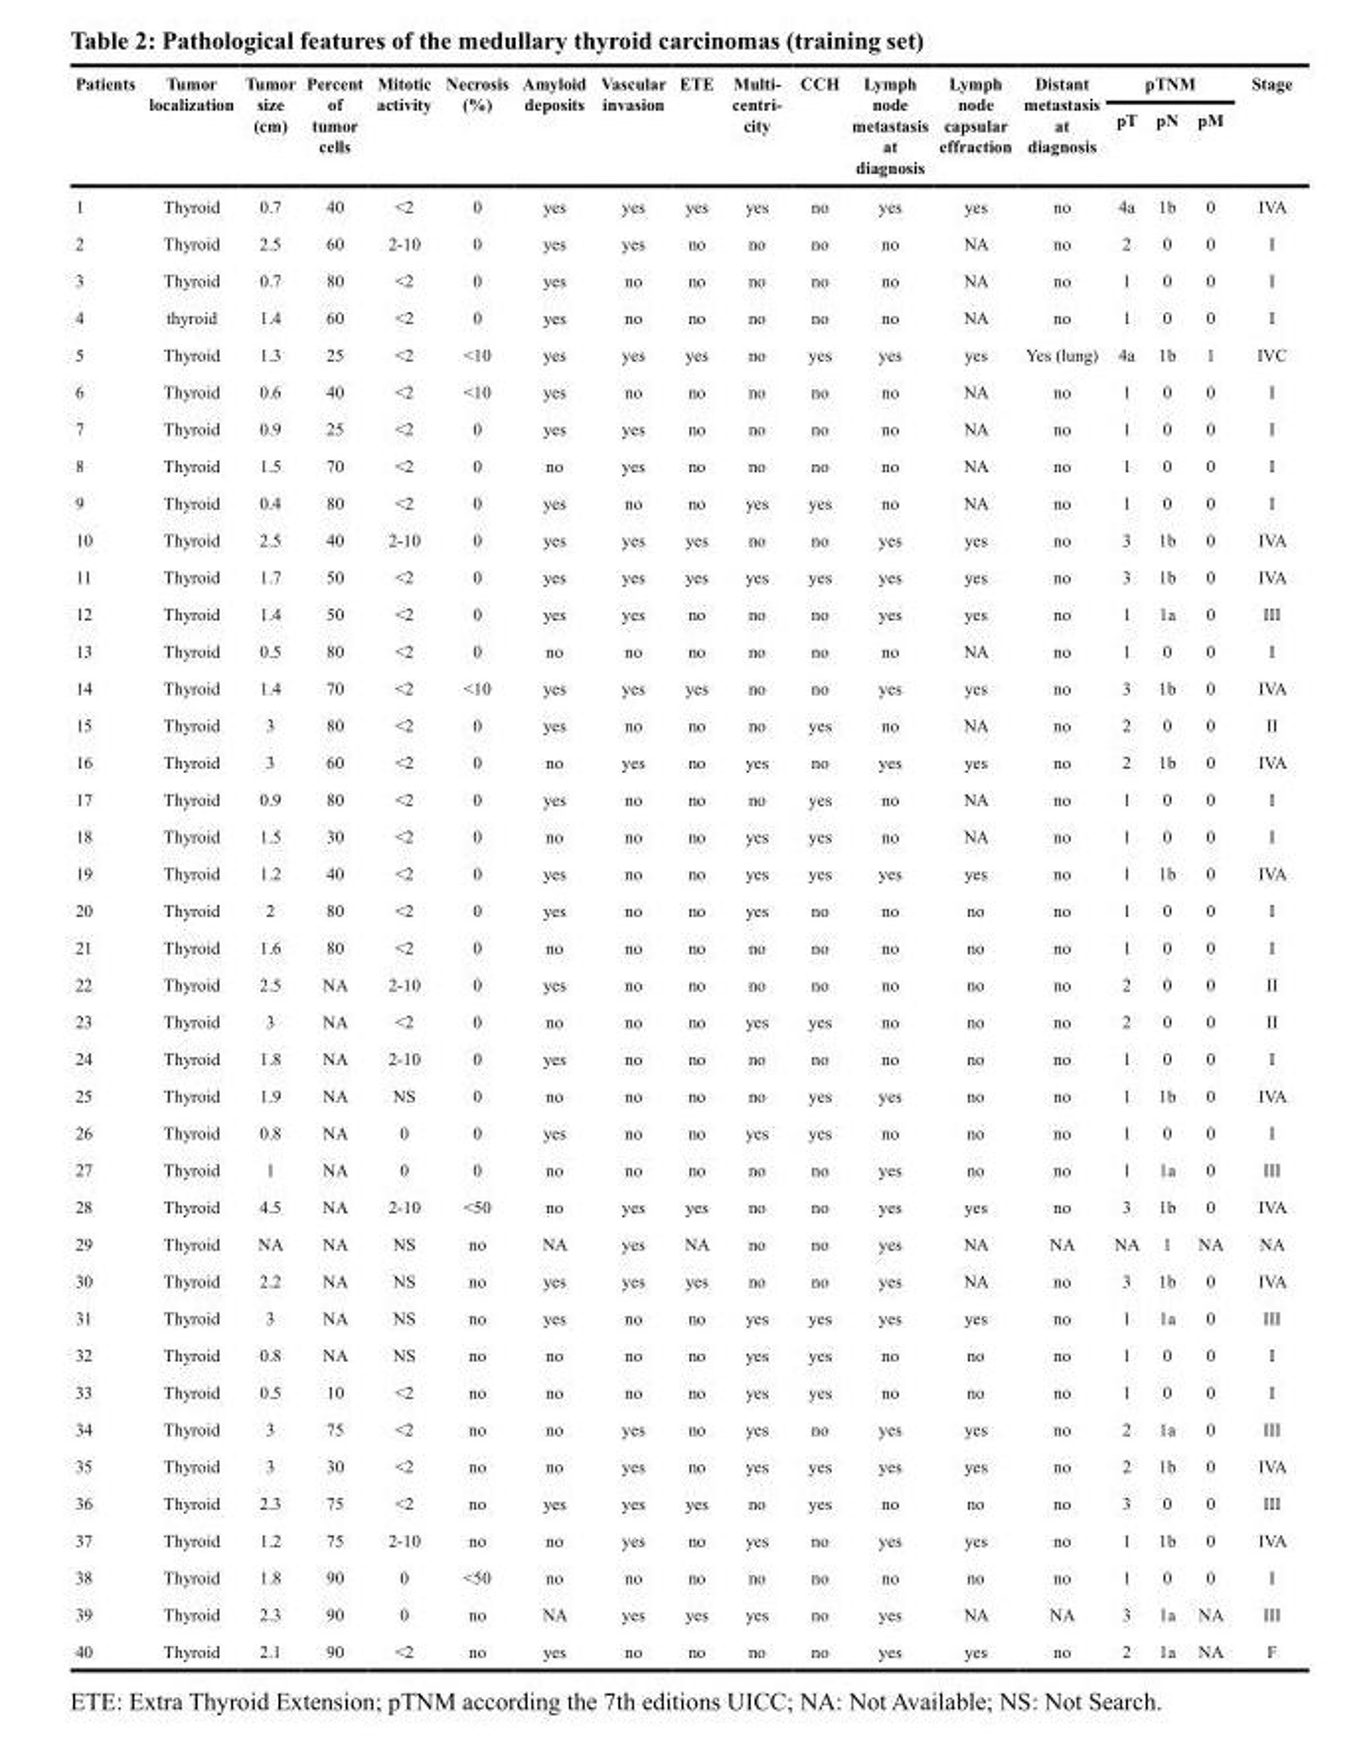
<table><thead><tr><td rowspan="2">Patients</td><td rowspan="2">Tumor localization</td><td rowspan="2">Tumor size (cm)</td><td rowspan="2">Percent of tumor cells</td><td rowspan="2">Mitotic activity</td><td rowspan="2">Necrosis (%)</td><td rowspan="2">Amyloid deposits</td><td rowspan="2">Vascular invasion</td><td rowspan="2">ETE</td><td rowspan="2">Multi- centri- city</td><td rowspan="2">CCH</td><td rowspan="2">Lymph node metastasis at diagnosis</td><td rowspan="2">Lymph node capsular effraction</td><td rowspan="2">Distant metastasis at diagnosis</td><td colspan="3">pTNM</td><td rowspan="2">Stage</td></tr><tr><td>pT</td><td>pN</td><td>pM</td></tr></thead><tbody><tr><td>1</td><td>Thyroid</td><td>0.7</td><td>40</td><td>&lt;2</td><td>0</td><td>yes</td><td>yes</td><td>yes</td><td>yes</td><td>no</td><td>yes</td><td>yes</td><td>no</td><td>4a</td><td>1b</td><td>0</td><td>IVA</td></tr><tr><td>2</td><td>Thyroid</td><td>2.5</td><td>60</td><td>2-10</td><td>0</td><td>yes</td><td>yes</td><td>no</td><td>no</td><td>no</td><td>no</td><td>NA</td><td>no</td><td>2</td><td>0</td><td>0</td><td>I</td></tr><tr><td>3</td><td>Thyroid</td><td>0.7</td><td>80</td><td>&lt;2</td><td>0</td><td>yes</td><td>no</td><td>no</td><td>no</td><td>no</td><td>no</td><td>NA</td><td>no</td><td>1</td><td>0</td><td>0</td><td>I</td></tr><tr><td>4</td><td>thyroid</td><td>1.4</td><td>60</td><td>&lt;2</td><td>0</td><td>yes</td><td>no</td><td>no</td><td>no</td><td>no</td><td>no</td><td>NA</td><td>no</td><td>1</td><td>0</td><td>0</td><td>I</td></tr><tr><td>5</td><td>Thyroid</td><td>1.3</td><td>25</td><td>&lt;2</td><td>&lt;10</td><td>yes</td><td>yes</td><td>yes</td><td>no</td><td>yes</td><td>yes</td><td>yes</td><td>Yes (lung)</td><td>4a</td><td>1b</td><td>1</td><td>IVC</td></tr><tr><td>6</td><td>Thyroid</td><td>0.6</td><td>40</td><td>&lt;2</td><td>&lt;10</td><td>yes</td><td>no</td><td>no</td><td>no</td><td>no</td><td>no</td><td>NA</td><td>no</td><td>1</td><td>0</td><td>0</td><td>I</td></tr><tr><td>7</td><td>Thyroid</td><td>0.9</td><td>25</td><td>&lt;2</td><td>0</td><td>yes</td><td>yes</td><td>no</td><td>no</td><td>no</td><td>no</td><td>NA</td><td>no</td><td>1</td><td>0</td><td>0</td><td>I</td></tr><tr><td>8</td><td>Thyroid</td><td>1.5</td><td>70</td><td>&lt;2</td><td>0</td><td>no</td><td>yes</td><td>no</td><td>no</td><td>no</td><td>no</td><td>NA</td><td>no</td><td>1</td><td>0</td><td>0</td><td>I</td></tr><tr><td>9</td><td>Thyroid</td><td>0.4</td><td>80</td><td>&lt;2</td><td>0</td><td>yes</td><td>no</td><td>no</td><td>yes</td><td>yes</td><td>no</td><td>NA</td><td>no</td><td>1</td><td>0</td><td>0</td><td>I</td></tr><tr><td>10</td><td>Thyroid</td><td>2.5</td><td>40</td><td>2-10</td><td>0</td><td>yes</td><td>yes</td><td>yes</td><td>no</td><td>no</td><td>yes</td><td>yes</td><td>no</td><td>3</td><td>1b</td><td>0</td><td>IVA</td></tr><tr><td>11</td><td>Thyroid</td><td>1.7</td><td>50</td><td>&lt;2</td><td>0</td><td>yes</td><td>yes</td><td>yes</td><td>yes</td><td>yes</td><td>yes</td><td>yes</td><td>no</td><td>3</td><td>1b</td><td>0</td><td>IVA</td></tr><tr><td>12</td><td>Thyroid</td><td>1.4</td><td>50</td><td>&lt;2</td><td>0</td><td>yes</td><td>yes</td><td>no</td><td>no</td><td>no</td><td>yes</td><td>yes</td><td>no</td><td>1</td><td>1a</td><td>0</td><td>III</td></tr><tr><td>13</td><td>Thyroid</td><td>0.5</td><td>80</td><td>&lt;2</td><td>0</td><td>no</td><td>no</td><td>no</td><td>no</td><td>no</td><td>no</td><td>NA</td><td>no</td><td>1</td><td>0</td><td>0</td><td>I</td></tr><tr><td>14</td><td>Thyroid</td><td>1.4</td><td>70</td><td>&lt;2</td><td>&lt;10</td><td>yes</td><td>yes</td><td>yes</td><td>no</td><td>no</td><td>yes</td><td>yes</td><td>no</td><td>3</td><td>1b</td><td>0</td><td>IVA</td></tr><tr><td>15</td><td>Thyroid</td><td>3</td><td>80</td><td>&lt;2</td><td>0</td><td>yes</td><td>no</td><td>no</td><td>no</td><td>yes</td><td>no</td><td>NA</td><td>no</td><td>2</td><td>0</td><td>0</td><td>II</td></tr><tr><td>16</td><td>Thyroid</td><td>3</td><td>60</td><td>&lt;2</td><td>0</td><td>no</td><td>yes</td><td>no</td><td>yes</td><td>no</td><td>yes</td><td>yes</td><td>no</td><td>2</td><td>1b</td><td>0</td><td>IVA</td></tr><tr><td>17</td><td>Thyroid</td><td>0.9</td><td>80</td><td>&lt;2</td><td>0</td><td>yes</td><td>no</td><td>no</td><td>no</td><td>yes</td><td>no</td><td>NA</td><td>no</td><td>1</td><td>0</td><td>0</td><td>I</td></tr><tr><td>18</td><td>Thyroid</td><td>1.5</td><td>30</td><td>&lt;2</td><td>0</td><td>no</td><td>no</td><td>no</td><td>yes</td><td>yes</td><td>no</td><td>NA</td><td>no</td><td>1</td><td>0</td><td>0</td><td>I</td></tr><tr><td>19</td><td>Thyroid</td><td>1.2</td><td>40</td><td>&lt;2</td><td>0</td><td>yes</td><td>no</td><td>no</td><td>yes</td><td>yes</td><td>yes</td><td>yes</td><td>no</td><td>1</td><td>1b</td><td>0</td><td>IVA</td></tr><tr><td>20</td><td>Thyroid</td><td>2</td><td>80</td><td>&lt;2</td><td>0</td><td>yes</td><td>no</td><td>no</td><td>yes</td><td>no</td><td>no</td><td>no</td><td>no</td><td>1</td><td>0</td><td>0</td><td>I</td></tr><tr><td>21</td><td>Thyroid</td><td>1.6</td><td>80</td><td>&lt;2</td><td>0</td><td>no</td><td>no</td><td>no</td><td>no</td><td>no</td><td>no</td><td>no</td><td>no</td><td>1</td><td>0</td><td>0</td><td>I</td></tr><tr><td>22</td><td>Thyroid</td><td>2.5</td><td>NA</td><td>2-10</td><td>0</td><td>yes</td><td>no</td><td>no</td><td>no</td><td>no</td><td>no</td><td>no</td><td>no</td><td>2</td><td>0</td><td>0</td><td>II</td></tr><tr><td>23</td><td>Thyroid</td><td>3</td><td>NA</td><td>&lt;2</td><td>0</td><td>no</td><td>no</td><td>no</td><td>yes</td><td>yes</td><td>no</td><td>no</td><td>no</td><td>2</td><td>0</td><td>0</td><td>II</td></tr><tr><td>24</td><td>Thyroid</td><td>1.8</td><td>NA</td><td>2-10</td><td>0</td><td>yes</td><td>no</td><td>no</td><td>no</td><td>no</td><td>no</td><td>no</td><td>no</td><td>1</td><td>0</td><td>0</td><td>I</td></tr><tr><td>25</td><td>Thyroid</td><td>1.9</td><td>NA</td><td>NS</td><td>0</td><td>no</td><td>no</td><td>no</td><td>no</td><td>yes</td><td>yes</td><td>no</td><td>no</td><td>1</td><td>1b</td><td>0</td><td>IVA</td></tr><tr><td>26</td><td>Thyroid</td><td>0.8</td><td>NA</td><td>0</td><td>0</td><td>yes</td><td>no</td><td>no</td><td>yes</td><td>yes</td><td>no</td><td>no</td><td>no</td><td>1</td><td>0</td><td>0</td><td>I</td></tr><tr><td>27</td><td>Thyroid</td><td>1</td><td>NA</td><td>0</td><td>0</td><td>no</td><td>no</td><td>no</td><td>no</td><td>no</td><td>yes</td><td>no</td><td>no</td><td>1</td><td>1a</td><td>0</td><td>III</td></tr><tr><td>28</td><td>Thyroid</td><td>4.5</td><td>NA</td><td>2-10</td><td>&lt;50</td><td>no</td><td>yes</td><td>yes</td><td>no</td><td>no</td><td>yes</td><td>yes</td><td>no</td><td>3</td><td>1b</td><td>0</td><td>IVA</td></tr><tr><td>29</td><td>Thyroid</td><td>NA</td><td>NA</td><td>NS</td><td>no</td><td>NA</td><td>yes</td><td>NA</td><td>no</td><td>no</td><td>yes</td><td>NA</td><td>NA</td><td>NA</td><td>1</td><td>NA</td><td>NA</td></tr><tr><td>30</td><td>Thyroid</td><td>2.2</td><td>NA</td><td>NS</td><td>no</td><td>yes</td><td>yes</td><td>yes</td><td>no</td><td>no</td><td>yes</td><td>NA</td><td>no</td><td>3</td><td>1b</td><td>0</td><td>IVA</td></tr><tr><td>31</td><td>Thyroid</td><td>3</td><td>NA</td><td>NS</td><td>no</td><td>yes</td><td>no</td><td>no</td><td>yes</td><td>yes</td><td>yes</td><td>yes</td><td>no</td><td>1</td><td>1a</td><td>0</td><td>III</td></tr><tr><td>32</td><td>Thyroid</td><td>0.8</td><td>NA</td><td>NS</td><td>no</td><td>no</td><td>no</td><td>no</td><td>yes</td><td>yes</td><td>no</td><td>no</td><td>no</td><td>1</td><td>0</td><td>0</td><td>I</td></tr><tr><td>33</td><td>Thyroid</td><td>0.5</td><td>10</td><td>&lt;2</td><td>no</td><td>no</td><td>no</td><td>no</td><td>yes</td><td>yes</td><td>no</td><td>no</td><td>no</td><td>1</td><td>0</td><td>0</td><td>I</td></tr><tr><td>34</td><td>Thyroid</td><td>3</td><td>75</td><td>&lt;2</td><td>no</td><td>no</td><td>yes</td><td>no</td><td>yes</td><td>no</td><td>yes</td><td>yes</td><td>no</td><td>2</td><td>1a</td><td>0</td><td>III</td></tr><tr><td>35</td><td>Thyroid</td><td>3</td><td>30</td><td>&lt;2</td><td>no</td><td>no</td><td>yes</td><td>no</td><td>yes</td><td>yes</td><td>yes</td><td>yes</td><td>no</td><td>2</td><td>1b</td><td>0</td><td>IVA</td></tr><tr><td>36</td><td>Thyroid</td><td>2.3</td><td>75</td><td>&lt;2</td><td>no</td><td>yes</td><td>yes</td><td>yes</td><td>no</td><td>yes</td><td>no</td><td>no</td><td>no</td><td>3</td><td>0</td><td>0</td><td>III</td></tr><tr><td>37</td><td>Thyroid</td><td>1.2</td><td>75</td><td>2-10</td><td>no</td><td>no</td><td>yes</td><td>no</td><td>yes</td><td>no</td><td>yes</td><td>yes</td><td>no</td><td>1</td><td>1b</td><td>0</td><td>IVA</td></tr><tr><td>38</td><td>Thyroid</td><td>1.8</td><td>90</td><td>0</td><td>&lt;50</td><td>no</td><td>no</td><td>no</td><td>no</td><td>no</td><td>no</td><td>no</td><td>no</td><td>1</td><td>0</td><td>0</td><td>I</td></tr><tr><td>39</td><td>Thyroid</td><td>2.3</td><td>90</td><td>0</td><td>no</td><td>NA</td><td>yes</td><td>yes</td><td>yes</td><td>no</td><td>yes</td><td>NA</td><td>NA</td><td>3</td><td>1a</td><td>NA</td><td>III</td></tr><tr><td>40</td><td>Thyroid</td><td>2.1</td><td>90</td><td>&lt;2</td><td>no</td><td>yes</td><td>no</td><td>no</td><td>no</td><td>no</td><td>yes</td><td>yes</td><td>no</td><td>2</td><td>1a</td><td>NA</td><td>F</td></tr></tbody></table>